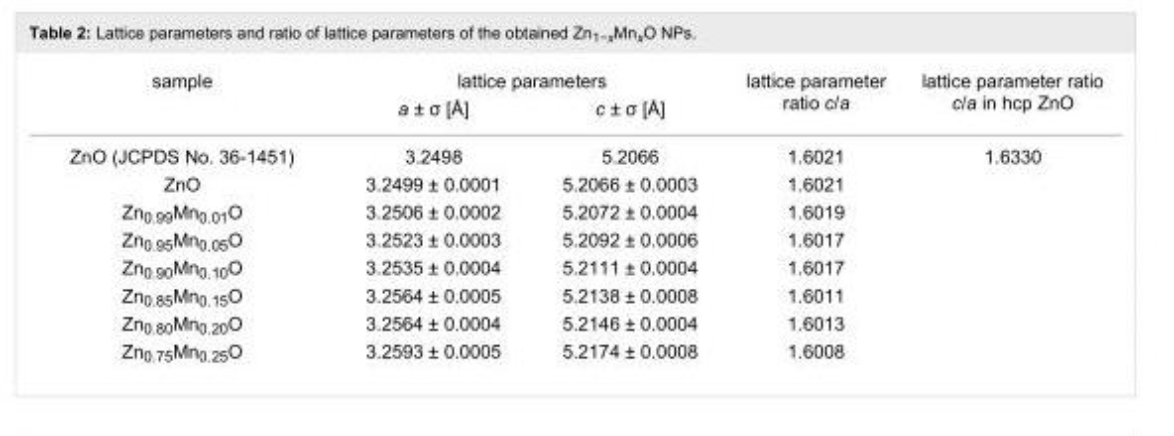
<table><tbody><tr><td rowspan="2">sample</td><td colspan="2">lattice parameters</td><td rowspan="2">lattice parameter ratio c/a</td><td rowspan="2">lattice parameter ratio c/a in hcp ZnO</td></tr><tr><td>a ± σ [Å]</td><td>c ± σ [Å]</td></tr><tr><td>ZnO (JCPDS No. 36-1451)</td><td>3.2498</td><td>5.2066</td><td>1.6021</td><td rowspan="8">1.6330</td></tr><tr><td>ZnO</td><td>3.2499 ± 0.0001</td><td>5.2066 ± 0.0003</td><td>1.6021</td></tr><tr><td>Zn<sub>0.99</sub>Mn<sub>0.01</sub>O</td><td>3.2506 ± 0.0002</td><td>5.2072 ± 0.0004</td><td>1.6019</td></tr><tr><td>Zn<sub>0.95</sub>Mn<sub>0.05</sub>O</td><td>3.2523 ± 0.0003</td><td>5.2092 ± 0.0006</td><td>1.6017</td></tr><tr><td>Zn<sub>0.90</sub>Mn<sub>0.10</sub>O</td><td>3.2535 ± 0.0004</td><td>5.2111 ± 0.0004</td><td>1.6017</td></tr><tr><td>Zn<sub>0.85</sub>Mn<sub>0.15</sub>O</td><td>3.2564 ± 0.0005</td><td>5.2138 ± 0.0008</td><td>1.6011</td></tr><tr><td>Zn<sub>0.80</sub>Mn<sub>0.20</sub>O</td><td>3.2564 ± 0.0004</td><td>5.2146 ± 0.0004</td><td>1.6013</td></tr><tr><td>Zn<sub>0.75</sub>Mn<sub>0.25</sub>O</td><td>3.2593 ± 0.0005</td><td>5.2174 ± 0.0008</td><td>1.6008</td></tr></tbody></table>